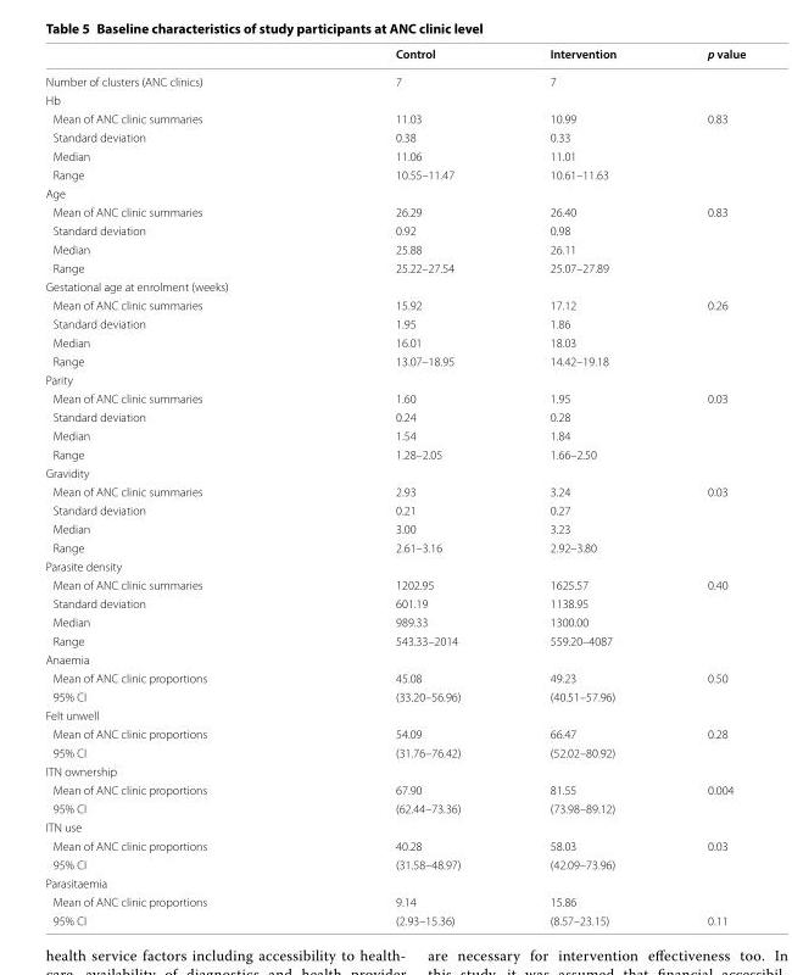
<table><thead><tr><td></td><td>Control</td><td>Intervention</td><td>p value</td></tr></thead><tbody><tr><td>Number of clusters (ANC clinics)</td><td>7</td><td>7</td><td></td></tr><tr><td colspan="4">Hb</td></tr><tr><td>Mean of ANC clinic summaries</td><td>11.03</td><td>10.99</td><td>0.83</td></tr><tr><td>Standard deviation</td><td>0.38</td><td>0.33</td><td></td></tr><tr><td>Median</td><td>11.06</td><td>11.01</td><td></td></tr><tr><td>Range</td><td>10.55–11.47</td><td>10.61–11.63</td><td></td></tr><tr><td colspan="4">Age</td></tr><tr><td>Mean of ANC clinic summaries</td><td>26.29</td><td>26.40</td><td>0.83</td></tr><tr><td>Standard deviation</td><td>0.92</td><td>0.98</td><td></td></tr><tr><td>Median</td><td>25.88</td><td>26.11</td><td></td></tr><tr><td>Range</td><td>25.22–27.54</td><td>25.07–27.89</td><td></td></tr><tr><td colspan="4">Gestational age at enrolment (weeks)</td></tr><tr><td>Mean of ANC clinic summaries</td><td>15.92</td><td>17.12</td><td>0.26</td></tr><tr><td>Standard deviation</td><td>1.95</td><td>1.86</td><td></td></tr><tr><td>Median</td><td>16.01</td><td>18.03</td><td></td></tr><tr><td>Range</td><td>13.07–18.95</td><td>14.42–19.18</td><td></td></tr><tr><td colspan="4">Parity</td></tr><tr><td>Mean of ANC clinic summaries</td><td>1.60</td><td>1.95</td><td>0.03</td></tr><tr><td>Standard deviation</td><td>0.24</td><td>0.28</td><td></td></tr><tr><td>Median</td><td>1.54</td><td>1.84</td><td></td></tr><tr><td>Range</td><td>1.28–2.05</td><td>1.66–2.50</td><td></td></tr><tr><td colspan="4">Gravidity</td></tr><tr><td>Mean of ANC clinic summaries</td><td>2.93</td><td>3.24</td><td>0.03</td></tr><tr><td>Standard deviation</td><td>0.21</td><td>0.27</td><td></td></tr><tr><td>Median</td><td>3.00</td><td>3.23</td><td></td></tr><tr><td>Range</td><td>2.61–3.16</td><td>2.92–3.80</td><td></td></tr><tr><td colspan="4">Parasite density</td></tr><tr><td>Mean of ANC clinic summaries</td><td>1202.95</td><td>1625.57</td><td>0.40</td></tr><tr><td>Standard deviation</td><td>601.19</td><td>1138.95</td><td></td></tr><tr><td>Median</td><td>989.33</td><td>1300.00</td><td></td></tr><tr><td>Range</td><td>543.33–2014</td><td>559.20–4087</td><td></td></tr><tr><td colspan="4">Anaemia</td></tr><tr><td>Mean of ANC clinic proportions</td><td>45.08</td><td>49.23</td><td>0.50</td></tr><tr><td>95% CI</td><td>(33.20–56.96)</td><td>(40.51–57.96)</td><td></td></tr><tr><td colspan="4">Felt unwell</td></tr><tr><td>Mean of ANC clinic proportions</td><td>54.09</td><td>66.47</td><td>0.28</td></tr><tr><td>95% CI</td><td>(31.76–76.42)</td><td>(52.02–80.92)</td><td></td></tr><tr><td colspan="4">ITN ownership</td></tr><tr><td>Mean of ANC clinic proportions</td><td>67.90</td><td>81.55</td><td>0.004</td></tr><tr><td>95% CI</td><td>(62.44–73.36)</td><td>(73.98–89.12)</td><td></td></tr><tr><td colspan="4">ITN use</td></tr><tr><td>Mean of ANC clinic proportions</td><td>40.28</td><td>58.03</td><td>0.03</td></tr><tr><td>95% CI</td><td>(31.58–48.97)</td><td>(42.09–73.96)</td><td></td></tr><tr><td colspan="4">Parasitaemia</td></tr><tr><td>Mean of ANC clinic proportions</td><td>9.14</td><td>15.86</td><td></td></tr><tr><td>95% CI</td><td>(2.93–15.36)</td><td>(8.57–23.15)</td><td>0.11</td></tr></tbody></table>